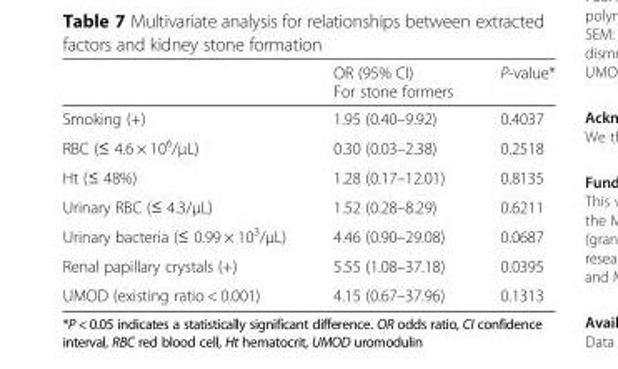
<table><thead><tr><td></td><td>OR (95% CI) For stone formers</td><td>P-value*</td></tr></thead><tbody><tr><td>Smoking (+)</td><td>1.95 (0.40–9.92)</td><td>0.4037</td></tr><tr><td>RBC (≤ 4.6 × 10<sup>6</sup>/μL)</td><td>0.30 (0.03–2.38)</td><td>0.2518</td></tr><tr><td>Ht (≤ 48%)</td><td>1.28 (0.17–12.01)</td><td>0.8135</td></tr><tr><td>Urinary RBC (≤ 4.3/μL)</td><td>1.52 (0.28–8.29)</td><td>0.6211</td></tr><tr><td>Urinary bacteria (≤ 0.99 × 10<sup>3</sup>/μL)</td><td>4.46 (0.90–29.08)</td><td>0.0687</td></tr><tr><td>Renal papillary crystals (+)</td><td>5.55 (1.08–37.18)</td><td>0.0395</td></tr><tr><td>UMOD (existing ratio &lt; 0.001)</td><td>4.15 (0.67–37.96)</td><td>0.1313</td></tr></tbody></table>